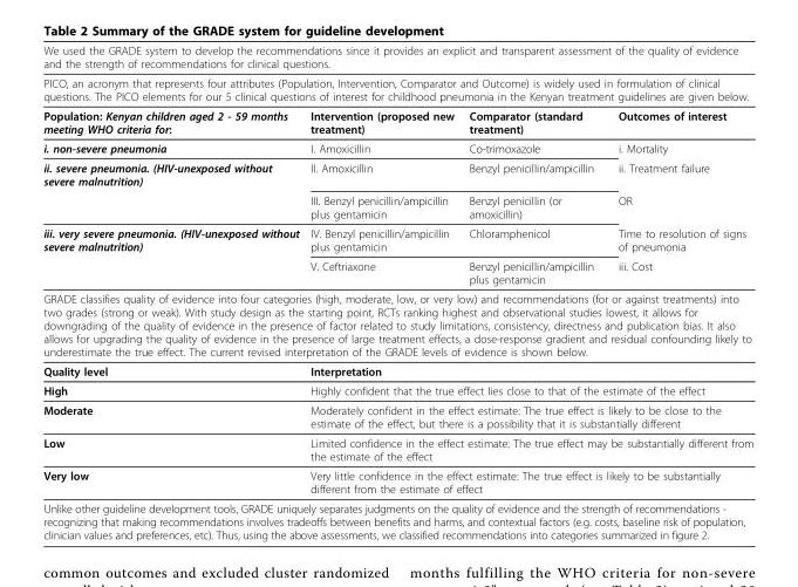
<table><thead><tr><td rowspan="2" colspan="4">We used the GRADE system to develop the recommendations since it provides an explicit and transparent assessment of the quality of evidence and the strength of recommendations for clinical questions. PICO, an acronym that represents four attributes (Population, Intervention, Comparator and Outcome) is widely used in formulation of clinical questions. The PICO elements for our 5 clinical questions of interest for childhood pneumonia in the Kenyan treatment guidelines are given below.</td></tr><tr></tr><tr><td>Population: Kenyan children aged 2 - 59 months meeting WHO criteria for:</td><td>Intervention (proposed new treatment)</td><td>Comparator (standard treatment)</td><td>Outcomes of interest</td></tr></thead><tbody><tr><td>i. non-severe pneumonia</td><td>I. Amoxicillin</td><td>Co-trimoxazole</td><td>i. Mortality</td></tr><tr><td rowspan="2">ii. severe pneumonia. (HIV-unexposed without severe malnutrition)</td><td>II. Amoxicillin</td><td>Benzyl penicillin/ampicillin</td><td>ii. Treatment failure</td></tr><tr><td>III. Benzyl penicillin/ampicillin plus gentamicin</td><td>Benzyl penicillin (or amoxicillin)</td><td>OR</td></tr><tr><td rowspan="2">iii. very severe pneumonia. (HIV-unexposed without severe malnutrition)</td><td>IV. Benzyl penicillin/ampicillin plus gentamicin</td><td>Chloramphenicol</td><td>Time to resolution of signs of pneumonia</td></tr><tr><td>V. Ceftriaxone</td><td>Benzyl penicillin/ampicillin plus gentamicin</td><td>iii. Cost</td></tr><tr><td colspan="4">GRADE classifies quality of evidence into four categories (high, moderate, low, or very low) and recommendations (for or against treatments) into two grades (strong or weak). With study design as the starting point, RCTs ranking highest and observational studies lowest, it allows for downgrading of the quality of evidence in the presence of factor related to study limitations, consistency, directness and publication bias. It also allows for upgrading the quality of evidence in the presence of large treatment effects, a dose-response gradient and residual confounding likely to underestimate the true effect. The current revised interpretation of the GRADE levels of evidence is shown below.</td></tr><tr><td>Quality level</td><td colspan="3">Interpretation</td></tr><tr><td>High</td><td colspan="3">Highly confident that the true effect lies close to that of the estimate of the effect</td></tr><tr><td>Moderate</td><td colspan="3">Moderately confident in the effect estimate: The true effect is likely to be close to the estimate of the effect, but there is a possibility that it is substantially different</td></tr><tr><td>Low</td><td colspan="3">Limited confidence in the effect estimate: The true effect may be substantially different from the estimate of the effect</td></tr><tr><td>Very low</td><td colspan="3">Very little confidence in the effect estimate: The true effect is likely to be substantially different from the estimate of effect</td></tr><tr><td colspan="4">Unlike other guideline development tools, GRADE uniquely separates judgments on the quality of evidence and the strength of recommendations - recognizing that making recommendations involves tradeoffs between benefits and harms, and contextual factors (e.g. costs, baseline risk of population, clinician values and preferences, etc). Thus, using the above assessments, we classified recommendations into categories summarized in figure 2.</td></tr></tbody></table>